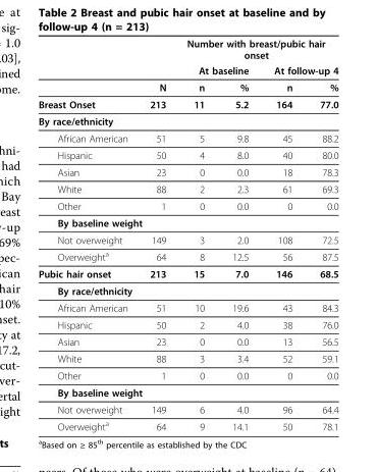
<table><thead><tr><td rowspan="3"></td><td rowspan="3">N</td><td colspan="4">Number with breast/pubic hair onset</td></tr><tr><td colspan="2">At baseline</td><td colspan="2">At follow-up 4</td></tr><tr><td>n</td><td>%</td><td>n</td><td>%</td></tr></thead><tbody><tr><td>Breast Onset</td><td>213</td><td>11</td><td>5.2</td><td>164</td><td>77.0</td></tr><tr><td colspan="6">By race/ethnicity</td></tr><tr><td>African American</td><td>51</td><td>5</td><td>9.8</td><td>45</td><td>88.2</td></tr><tr><td>Hispanic</td><td>50</td><td>4</td><td>8.0</td><td>40</td><td>80.0</td></tr><tr><td>Asian</td><td>23</td><td>0</td><td>0.0</td><td>18</td><td>78.3</td></tr><tr><td>White</td><td>88</td><td>2</td><td>2.3</td><td>61</td><td>69.3</td></tr><tr><td>Other</td><td>1</td><td>0</td><td>0.0</td><td>0</td><td>0.0</td></tr><tr><td colspan="6">By baseline weight</td></tr><tr><td>Not overweight</td><td>149</td><td>3</td><td>2.0</td><td>108</td><td>72.5</td></tr><tr><td>Overweight<sup>a</sup></td><td>64</td><td>8</td><td>12.5</td><td>56</td><td>87.5</td></tr><tr><td>Pubic hair onset</td><td>213</td><td>15</td><td>7.0</td><td>146</td><td>68.5</td></tr><tr><td colspan="6">By race/ethnicity</td></tr><tr><td>African American</td><td>51</td><td>10</td><td>19.6</td><td>43</td><td>84.3</td></tr><tr><td>Hispanic</td><td>50</td><td>2</td><td>4.0</td><td>38</td><td>76.0</td></tr><tr><td>Asian</td><td>23</td><td>0</td><td>0.0</td><td>13</td><td>56.5</td></tr><tr><td>White</td><td>88</td><td>3</td><td>3.4</td><td>52</td><td>59.1</td></tr><tr><td>Other</td><td>1</td><td>0</td><td>0.0</td><td>0</td><td>0.0</td></tr><tr><td colspan="6">By baseline weight</td></tr><tr><td>Not overweight</td><td>149</td><td>6</td><td>4.0</td><td>96</td><td>64.4</td></tr><tr><td>Overweight<sup>a</sup></td><td>64</td><td>9</td><td>14.1</td><td>50</td><td>78.1</td></tr></tbody></table>